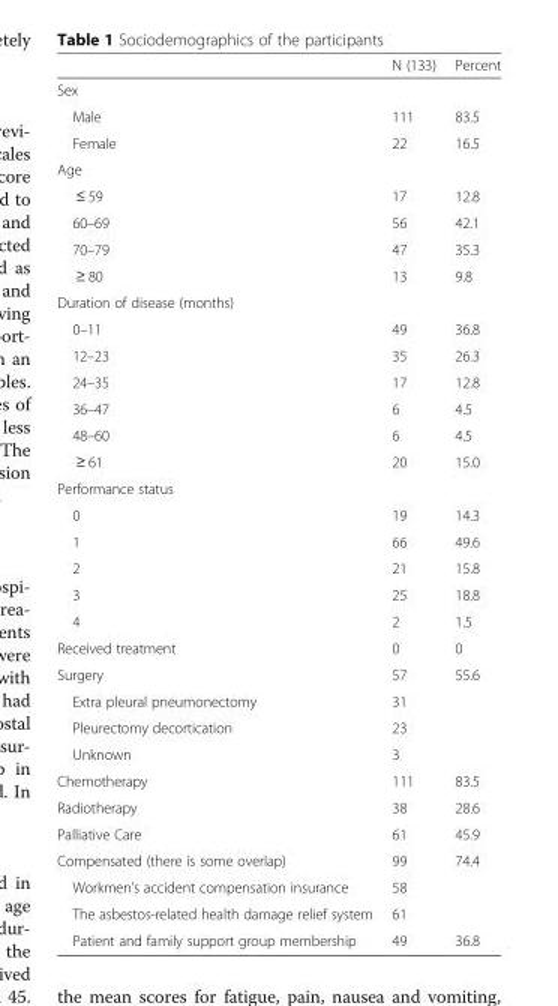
<table><thead><tr><td></td><td>N (133)</td><td>Percent</td></tr></thead><tbody><tr><td colspan="3">Sex</td></tr><tr><td>Male</td><td>111</td><td>83.5</td></tr><tr><td>Female</td><td>22</td><td>16.5</td></tr><tr><td colspan="3">Age</td></tr><tr><td>≤ 59</td><td>17</td><td>12.8</td></tr><tr><td>60–69</td><td>56</td><td>42.1</td></tr><tr><td>70–79</td><td>47</td><td>35.3</td></tr><tr><td>≥ 80</td><td>13</td><td>9.8</td></tr><tr><td colspan="3">Duration of disease (months)</td></tr><tr><td>0–11</td><td>49</td><td>36.8</td></tr><tr><td>12–23</td><td>35</td><td>26.3</td></tr><tr><td>24–35</td><td>17</td><td>12.8</td></tr><tr><td>36–47</td><td>6</td><td>4.5</td></tr><tr><td>48–60</td><td>6</td><td>4.5</td></tr><tr><td>≥ 61</td><td>20</td><td>15.0</td></tr><tr><td colspan="3">Performance status</td></tr><tr><td>0</td><td>19</td><td>14.3</td></tr><tr><td>1</td><td>66</td><td>49.6</td></tr><tr><td>2</td><td>21</td><td>15.8</td></tr><tr><td>3</td><td>25</td><td>18.8</td></tr><tr><td>4</td><td>2</td><td>1.5</td></tr><tr><td>Received treatment</td><td>0</td><td>0</td></tr><tr><td>Surgery</td><td>57</td><td>55.6</td></tr><tr><td>Extra pleural pneumonectomy</td><td>31</td><td></td></tr><tr><td>Pleurectomy decortication</td><td>23</td><td></td></tr><tr><td>Unknown</td><td>3</td><td></td></tr><tr><td>Chemotherapy</td><td>111</td><td>83.5</td></tr><tr><td>Radiotherapy</td><td>38</td><td>28.6</td></tr><tr><td>Palliative Care</td><td>61</td><td>45.9</td></tr><tr><td>Compensated (there is some overlap)</td><td>99</td><td>74.4</td></tr><tr><td>Workmen’s accident compensation insurance</td><td>58</td><td></td></tr><tr><td>The asbestos-related health damage relief system</td><td>61</td><td></td></tr><tr><td>Patient and family support group membership</td><td>49</td><td>36.8</td></tr></tbody></table>